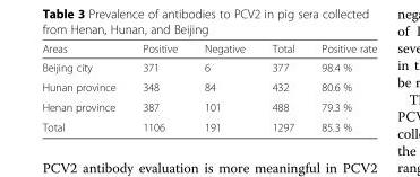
<table><thead><tr><td>Areas</td><td>Positive</td><td>Negative</td><td>Total</td><td>Positive rate</td></tr></thead><tbody><tr><td>Beijing city</td><td>371</td><td>6</td><td>377</td><td>98.4 %</td></tr><tr><td>Hunan province</td><td>348</td><td>84</td><td>432</td><td>80.6 %</td></tr><tr><td>Henan province</td><td>387</td><td>101</td><td>488</td><td>79.3 %</td></tr><tr><td>Total</td><td>1106</td><td>191</td><td>1297</td><td>85.3 %</td></tr></tbody></table>